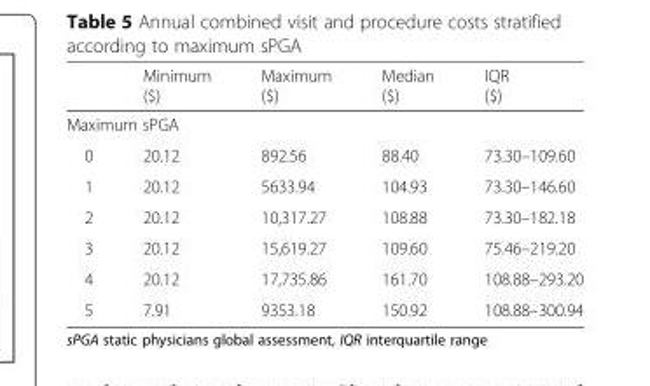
<table><thead><tr><td></td><td>Minimum ($)</td><td>Maximum ($)</td><td>Median ($)</td><td>IQR ($)</td></tr></thead><tbody><tr><td colspan="5">Maximum sPGA</td></tr><tr><td>0</td><td>20.12</td><td>892.56</td><td>88.40</td><td>73.30–109.60</td></tr><tr><td>1</td><td>20.12</td><td>5633.94</td><td>104.93</td><td>73.30–146.60</td></tr><tr><td>2</td><td>20.12</td><td>10,317.27</td><td>108.88</td><td>73.30–182.18</td></tr><tr><td>3</td><td>20.12</td><td>15,619.27</td><td>109.60</td><td>75.46–219.20</td></tr><tr><td>4</td><td>20.12</td><td>17,735.86</td><td>161.70</td><td>108.88–293.20</td></tr><tr><td>5</td><td>7.91</td><td>9353.18</td><td>150.92</td><td>108.88–300.94</td></tr></tbody></table>